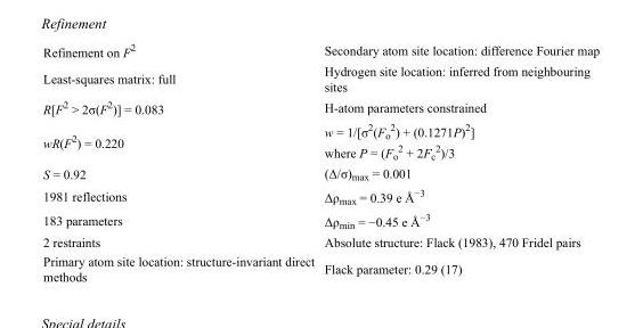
<table><tbody><tr><td>Refinement on F<sup>2</sup></td><td>Secondary atom site location: difference Fourier map</td></tr><tr><td>Least-squares matrix: full</td><td>Hydrogen site location: inferred from neighbouring sites</td></tr><tr><td>R[F<sup>2</sup> &gt; 2σ(F<sup>2</sup>)] = 0.083</td><td>H-atom parameters constrained</td></tr><tr><td>wR(F<sup>2</sup>) = 0.220</td><td>w = 1/[σ<sup>2</sup>(F<sub>o</sub> <sup>2</sup>) + (0.1271P)<sup>2</sup>] where P = (F<sub>o</sub> <sup>2</sup> + 2F<sub>c</sub> <sup>2</sup>)/3</td></tr><tr><td>S = 0.92</td><td>(Δ/σ)<sub>max</sub> = 0.001</td></tr><tr><td>1981 reflections</td><td>Δρ<sub>max</sub> = 0.39 e Å<sup>−3</sup></td></tr><tr><td>183 parameters</td><td>Δρ<sub>min</sub> = −0.45 e Å<sup>−3</sup></td></tr><tr><td>2 restraints</td><td>Absolute structure: Flack (1983), 470 Fridel pairs</td></tr><tr><td>Primary atom site location: structure-invariant direct methods</td><td>Flack parameter: 0.29 (17)</td></tr></tbody></table>